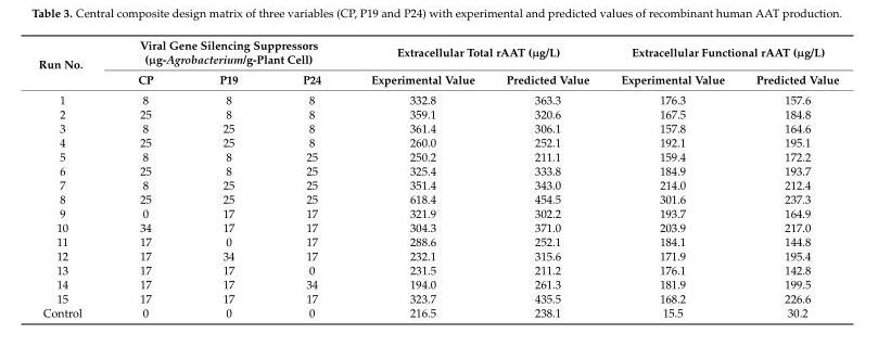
<table><thead><tr><td rowspan="2">Run No.</td><td colspan="3">Viral Gene Silencing Suppressors (µg-Agrobacterium/g-Plant Cell)</td><td colspan="2">Extracellular Total rAAT (µg/L)</td><td colspan="2">Extracellular Functional rAAT (µg/L)</td></tr><tr><td>CP</td><td>P19</td><td>P24</td><td>Experimental Value</td><td>Predicted Value</td><td>Experimental Value</td><td>Predicted Value</td></tr></thead><tbody><tr><td>1</td><td>8</td><td>8</td><td>8</td><td>332.8</td><td>363.3</td><td>176.3</td><td>157.6</td></tr><tr><td>2</td><td>25</td><td>8</td><td>8</td><td>359.1</td><td>320.6</td><td>167.5</td><td>184.8</td></tr><tr><td>3</td><td>8</td><td>25</td><td>8</td><td>361.4</td><td>306.1</td><td>157.8</td><td>164.6</td></tr><tr><td>4</td><td>25</td><td>25</td><td>8</td><td>260.0</td><td>252.1</td><td>192.1</td><td>195.1</td></tr><tr><td>5</td><td>8</td><td>8</td><td>25</td><td>250.2</td><td>211.1</td><td>159.4</td><td>172.2</td></tr><tr><td>6</td><td>25</td><td>8</td><td>25</td><td>325.4</td><td>333.8</td><td>184.9</td><td>193.7</td></tr><tr><td>7</td><td>8</td><td>25</td><td>25</td><td>351.4</td><td>343.0</td><td>214.0</td><td>212.4</td></tr><tr><td>8</td><td>25</td><td>25</td><td>25</td><td>618.4</td><td>454.5</td><td>301.6</td><td>237.3</td></tr><tr><td>9</td><td>0</td><td>17</td><td>17</td><td>321.9</td><td>302.2</td><td>193.7</td><td>164.9</td></tr><tr><td>10</td><td>34</td><td>17</td><td>17</td><td>304.3</td><td>371.0</td><td>203.9</td><td>217.0</td></tr><tr><td>11</td><td>17</td><td>0</td><td>17</td><td>288.6</td><td>252.1</td><td>184.1</td><td>144.8</td></tr><tr><td>12</td><td>17</td><td>34</td><td>17</td><td>232.1</td><td>315.6</td><td>171.9</td><td>195.4</td></tr><tr><td>13</td><td>17</td><td>17</td><td>0</td><td>231.5</td><td>211.2</td><td>176.1</td><td>142.8</td></tr><tr><td>14</td><td>17</td><td>17</td><td>34</td><td>194.0</td><td>261.3</td><td>181.9</td><td>199.5</td></tr><tr><td>15</td><td>17</td><td>17</td><td>17</td><td>323.7</td><td>435.5</td><td>168.2</td><td>226.6</td></tr><tr><td>Control</td><td>0</td><td>0</td><td>0</td><td>216.5</td><td>238.1</td><td>15.5</td><td>30.2</td></tr></tbody></table>